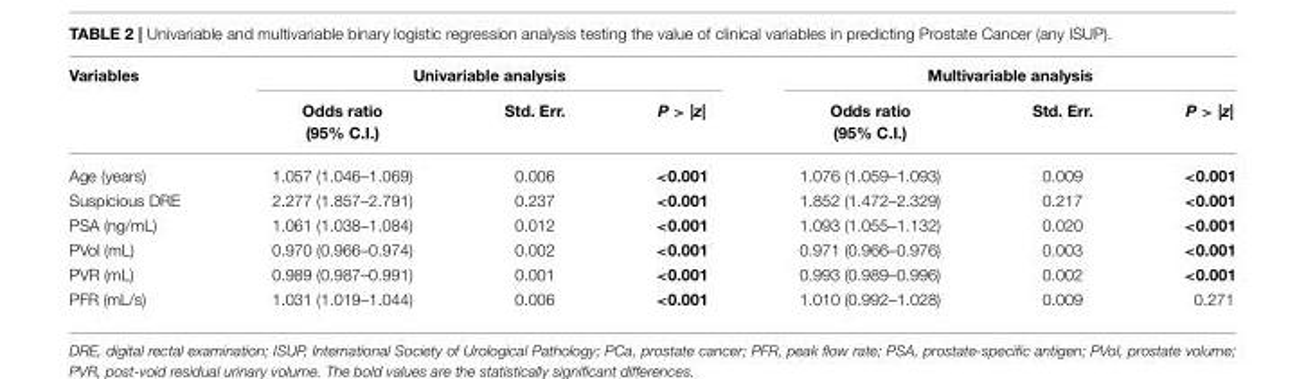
<table><thead><tr><td rowspan="2">Variables</td><td colspan="3">Univariable analysis</td><td colspan="3">Multivariable analysis</td></tr><tr><td>Odds ratio (95% C.I.)</td><td>Std. Err.</td><td>P &gt; |z|</td><td>Odds ratio (95% C.I.)</td><td>Std. Err.</td><td>P &gt; |z|</td></tr></thead><tbody><tr><td>Age (years)</td><td>1.057 (1.046–1.069)</td><td>0.006</td><td>&lt;0.001</td><td>1.076 (1.059–1.093)</td><td>0.009</td><td>&lt;0.001</td></tr><tr><td>Suspicious DRE</td><td>2.277 (1.857–2.791)</td><td>0.237</td><td>&lt;0.001</td><td>1.852 (1.472–2.329)</td><td>0.217</td><td>&lt;0.001</td></tr><tr><td>PSA (ng/mL)</td><td>1.061 (1.038–1.084)</td><td>0.012</td><td>&lt;0.001</td><td>1.093 (1.055–1.132)</td><td>0.020</td><td>&lt;0.001</td></tr><tr><td>PVol (mL)</td><td>0.970 (0.966–0.974)</td><td>0.002</td><td>&lt;0.001</td><td>0.971 (0.966–0.976)</td><td>0.003</td><td>&lt;0.001</td></tr><tr><td>PVR (mL)</td><td>0.989 (0.987–0.991)</td><td>0.001</td><td>&lt;0.001</td><td>0.993 (0.989–0.996)</td><td>0.002</td><td>&lt;0.001</td></tr><tr><td>PFR (mL/s)</td><td>1.031 (1.019–1.044)</td><td>0.006</td><td>&lt;0.001</td><td>1.010 (0.992–1.028)</td><td>0.009</td><td>0.271</td></tr></tbody></table>